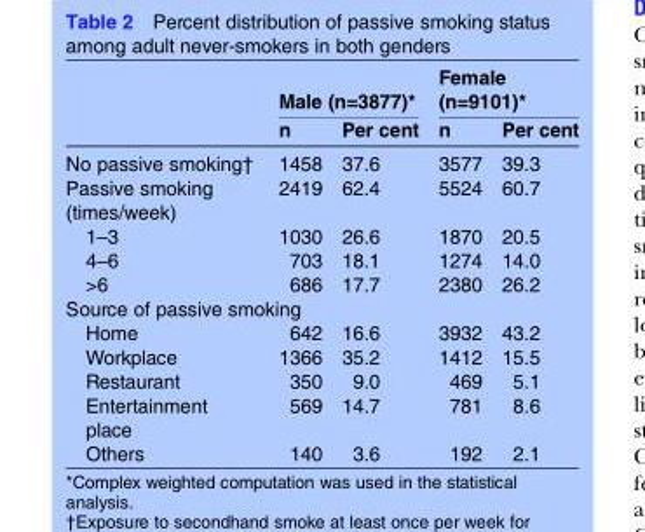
<table><thead><tr><td rowspan="2"></td><td colspan="2">Male (n=3877)*</td><td colspan="2">Female (n=9101)*</td></tr><tr><td>n</td><td>Per cent</td><td>n</td><td>Per cent</td></tr></thead><tbody><tr><td>No passive smoking†</td><td>1458</td><td>37.6</td><td>3577</td><td>39.3</td></tr><tr><td>Passive smoking (times/week)</td><td>2419</td><td>62.4</td><td>5524</td><td>60.7</td></tr><tr><td>1–3</td><td>1030</td><td>26.6</td><td>1870</td><td>20.5</td></tr><tr><td>4–6</td><td>703</td><td>18.1</td><td>1274</td><td>14.0</td></tr><tr><td>&gt;6</td><td>686</td><td>17.7</td><td>2380</td><td>26.2</td></tr><tr><td colspan="5">Source of passive smoking</td></tr><tr><td>Home</td><td>642</td><td>16.6</td><td>3932</td><td>43.2</td></tr><tr><td>Workplace</td><td>1366</td><td>35.2</td><td>1412</td><td>15.5</td></tr><tr><td>Restaurant</td><td>350</td><td>9.0</td><td>469</td><td>5.1</td></tr><tr><td>Entertainment place</td><td>569</td><td>14.7</td><td>781</td><td>8.6</td></tr><tr><td>Others</td><td>140</td><td>3.6</td><td>192</td><td>2.1</td></tr></tbody></table>